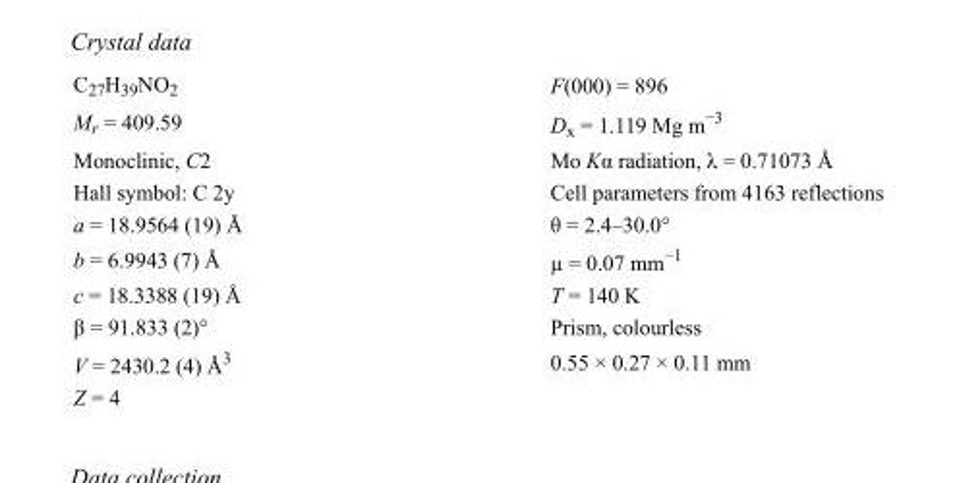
<table><tbody><tr><td>C<sub>27</sub>H<sub>39</sub>NO<sub>2</sub></td><td>F(000) = 896</td></tr><tr><td>M<sub>r</sub> = 409.59</td><td>D<sub>x</sub> = 1.119 Mg m<sup>−3</sup></td></tr><tr><td>Monoclinic, C2</td><td>Mo Kα radiation, λ = 0.71073 Å</td></tr><tr><td>Hall symbol: C 2y</td><td>Cell parameters from 4163 reflections</td></tr><tr><td>a = 18.9564 (19) Å</td><td>θ = 2.4–30.0°</td></tr><tr><td>b = 6.9943 (7) Å</td><td>µ = 0.07 mm<sup>−1</sup></td></tr><tr><td>c = 18.3388 (19) Å</td><td>T = 140 K</td></tr><tr><td>β = 91.833 (2)°</td><td>Prism, colourless</td></tr><tr><td>V = 2430.2 (4) Å<sup>3</sup></td><td>0.55 × 0.27 × 0.11 mm</td></tr><tr><td>Z = 4</td><td></td></tr></tbody></table>